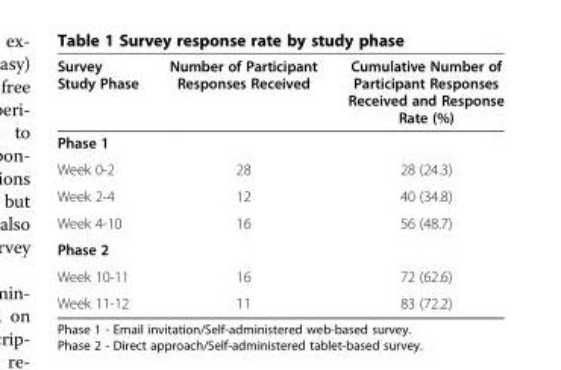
<table><thead><tr><td>Survey Study Phase</td><td>Number of Participant Responses Received</td><td>Cumulative Number of Participant Responses Received and Response Rate (%)</td></tr></thead><tbody><tr><td colspan="3">Phase 1</td></tr><tr><td>Week 0-2</td><td>28</td><td>28 (24.3)</td></tr><tr><td>Week 2-4</td><td>12</td><td>40 (34.8)</td></tr><tr><td>Week 4-10</td><td>16</td><td>56 (48.7)</td></tr><tr><td colspan="3">Phase 2</td></tr><tr><td>Week 10-11</td><td>16</td><td>72 (62.6)</td></tr><tr><td>Week 11-12</td><td>11</td><td>83 (72.2)</td></tr></tbody></table>